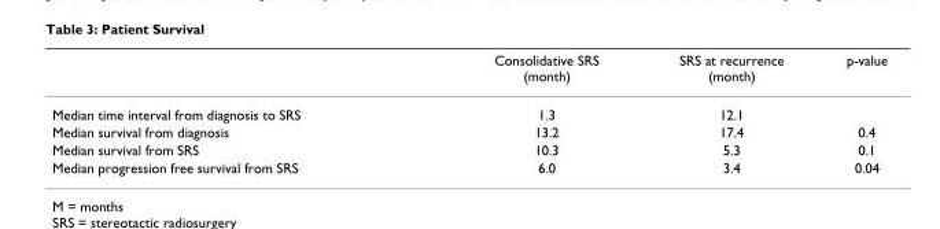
<table><thead><tr><td></td><td>Consolidative SRS (month)</td><td>SRS at recurrence (month)</td><td>p-value</td></tr></thead><tbody><tr><td>Median time interval from diagnosis to SRS</td><td>1.3</td><td>12.1</td><td></td></tr><tr><td>Median survival from diagnosis</td><td>13.2</td><td>17.4</td><td>0.4</td></tr><tr><td>Median survival from SRS</td><td>10.3</td><td>5.3</td><td>0.1</td></tr><tr><td>Median progression free survival from SRS</td><td>6.0</td><td>3.4</td><td>0.04</td></tr></tbody></table>